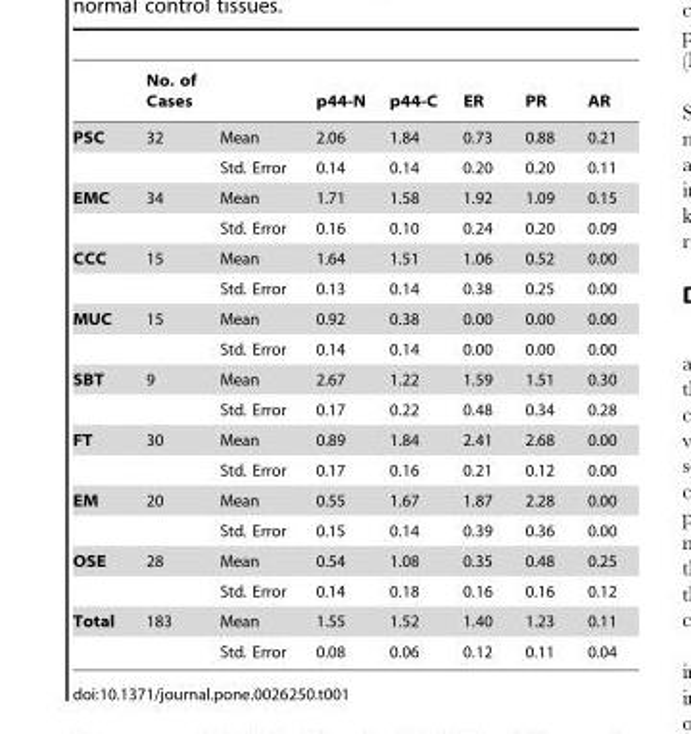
<table><thead><tr><td></td><td>No. of Cases</td><td></td><td>p44-N</td><td>p44-C</td><td>ER</td><td>PR</td><td>AR</td></tr></thead><tbody><tr><td rowspan="2">PSC</td><td>32</td><td>Mean</td><td>2.06</td><td>1.84</td><td>0.73</td><td>0.88</td><td>0.21</td></tr><tr><td></td><td>Std. Error</td><td>0.14</td><td>0.14</td><td>0.20</td><td>0.20</td><td>0.11</td></tr><tr><td rowspan="2">EMC</td><td>34</td><td>Mean</td><td>1.71</td><td>1.58</td><td>1.92</td><td>1.09</td><td>0.15</td></tr><tr><td></td><td>Std. Error</td><td>0.16</td><td>0.10</td><td>0.24</td><td>0.20</td><td>0.09</td></tr><tr><td rowspan="2">CCC</td><td>15</td><td>Mean</td><td>1.64</td><td>1.51</td><td>1.06</td><td>0.52</td><td>0.00</td></tr><tr><td></td><td>Std. Error</td><td>0.13</td><td>0.14</td><td>0.38</td><td>0.25</td><td>0.00</td></tr><tr><td rowspan="2">MUC</td><td>15</td><td>Mean</td><td>0.92</td><td>0.38</td><td>0.00</td><td>0.00</td><td>0.00</td></tr><tr><td></td><td>Std. Error</td><td>0.14</td><td>0.14</td><td>0.00</td><td>0.00</td><td>0.00</td></tr><tr><td rowspan="2">SBT</td><td>9</td><td>Mean</td><td>2.67</td><td>1.22</td><td>1.59</td><td>1.51</td><td>0.30</td></tr><tr><td></td><td>Std. Error</td><td>0.17</td><td>0.22</td><td>0.48</td><td>0.34</td><td>0.28</td></tr><tr><td rowspan="2">FT</td><td>30</td><td>Mean</td><td>0.89</td><td>1.84</td><td>2.41</td><td>2.68</td><td>0.00</td></tr><tr><td></td><td>Std. Error</td><td>0.17</td><td>0.16</td><td>0.21</td><td>0.12</td><td>0.00</td></tr><tr><td rowspan="2">EM</td><td>20</td><td>Mean</td><td>0.55</td><td>1.67</td><td>1.87</td><td>2.28</td><td>0.00</td></tr><tr><td></td><td>Std. Error</td><td>0.15</td><td>0.14</td><td>0.39</td><td>0.36</td><td>0.00</td></tr><tr><td rowspan="2">OSE</td><td>28</td><td>Mean</td><td>0.54</td><td>1.08</td><td>0.35</td><td>0.48</td><td>0.25</td></tr><tr><td></td><td>Std. Error</td><td>0.14</td><td>0.18</td><td>0.16</td><td>0.16</td><td>0.12</td></tr><tr><td rowspan="2">Total</td><td>183</td><td>Mean</td><td>1.55</td><td>1.52</td><td>1.40</td><td>1.23</td><td>0.11</td></tr><tr><td></td><td>Std. Error</td><td>0.08</td><td>0.06</td><td>0.12</td><td>0.11</td><td>0.04</td></tr></tbody></table>